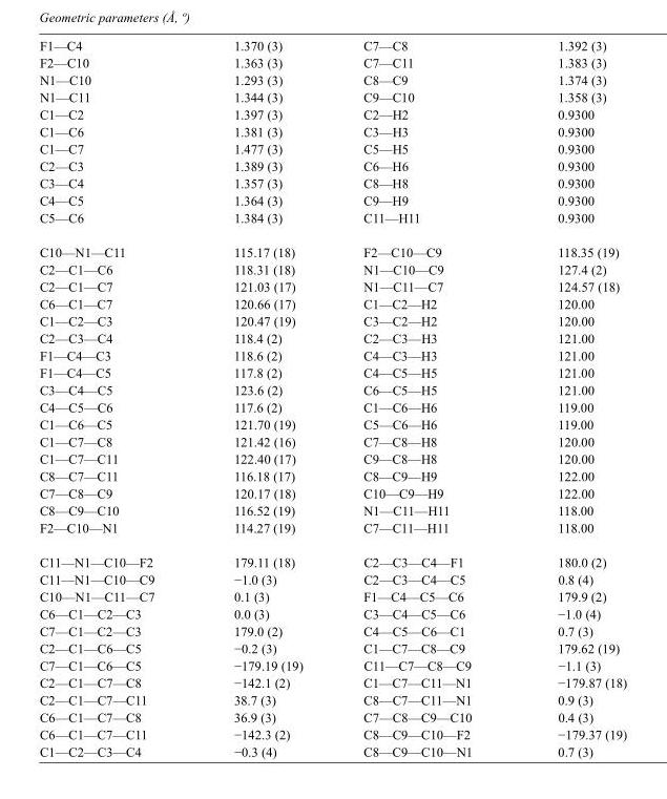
<table><tbody><tr><td>F1—C4</td><td>1.370 (3)</td><td>C7—C8</td><td>1.392 (3)</td></tr><tr><td>F2—C10</td><td>1.363 (3)</td><td>C7—C11</td><td>1.383 (3)</td></tr><tr><td>N1—C10</td><td>1.293 (3)</td><td>C8—C9</td><td>1.374 (3)</td></tr><tr><td>N1—C11</td><td>1.344 (3)</td><td>C9—C10</td><td>1.358 (3)</td></tr><tr><td>C1—C2</td><td>1.397 (3)</td><td>C2—H2</td><td>0.9300</td></tr><tr><td>C1—C6</td><td>1.381 (3)</td><td>C3—H3</td><td>0.9300</td></tr><tr><td>C1—C7</td><td>1.477 (3)</td><td>C5—H5</td><td>0.9300</td></tr><tr><td>C2—C3</td><td>1.389 (3)</td><td>C6—H6</td><td>0.9300</td></tr><tr><td>C3—C4</td><td>1.357 (3)</td><td>C8—H8</td><td>0.9300</td></tr><tr><td>C4—C5</td><td>1.364 (3)</td><td>C9—H9</td><td>0.9300</td></tr><tr><td>C5—C6</td><td>1.384 (3)</td><td>C11—H11</td><td>0.9300</td></tr><tr><td>C10—N1—C11</td><td>115.17 (18)</td><td>F2—C10—C9</td><td>118.35 (19)</td></tr><tr><td>C2—C1—C6</td><td>118.31 (18)</td><td>N1—C10—C9</td><td>127.4 (2)</td></tr><tr><td>C2—C1—C7</td><td>121.03 (17)</td><td>N1—C11—C7</td><td>124.57 (18)</td></tr><tr><td>C6—C1—C7</td><td>120.66 (17)</td><td>C1—C2—H2</td><td>120.00</td></tr><tr><td>C1—C2—C3</td><td>120.47 (19)</td><td>C3—C2—H2</td><td>120.00</td></tr><tr><td>C2—C3—C4</td><td>118.4 (2)</td><td>C2—C3—H3</td><td>121.00</td></tr><tr><td>F1—C4—C3</td><td>118.6 (2)</td><td>C4—C3—H3</td><td>121.00</td></tr><tr><td>F1—C4—C5</td><td>117.8 (2)</td><td>C4—C5—H5</td><td>121.00</td></tr><tr><td>C3—C4—C5</td><td>123.6 (2)</td><td>C6—C5—H5</td><td>121.00</td></tr><tr><td>C4—C5—C6</td><td>117.6 (2)</td><td>C1—C6—H6</td><td>119.00</td></tr><tr><td>C1—C6—C5</td><td>121.70 (19)</td><td>C5—C6—H6</td><td>119.00</td></tr><tr><td>C1—C7—C8</td><td>121.42 (16)</td><td>C7—C8—H8</td><td>120.00</td></tr><tr><td>C1—C7—C11</td><td>122.40 (17)</td><td>C9—C8—H8</td><td>120.00</td></tr><tr><td>C8—C7—C11</td><td>116.18 (17)</td><td>C8—C9—H9</td><td>122.00</td></tr><tr><td>C7—C8—C9</td><td>120.17 (18)</td><td>C10—C9—H9</td><td>122.00</td></tr><tr><td>C8—C9—C10</td><td>116.52 (19)</td><td>N1—C11—H11</td><td>118.00</td></tr><tr><td>F2—C10—N1</td><td>114.27 (19)</td><td>C7—C11—H11</td><td>118.00</td></tr><tr><td>C11—N1—C10—F2</td><td>179.11 (18)</td><td>C2—C3—C4—F1</td><td>180.0 (2)</td></tr><tr><td>C11—N1—C10—C9</td><td>−1.0 (3)</td><td>C2—C3—C4—C5</td><td>0.8 (4)</td></tr><tr><td>C10—N1—C11—C7</td><td>0.1 (3)</td><td>F1—C4—C5—C6</td><td>179.9 (2)</td></tr><tr><td>C6—C1—C2—C3</td><td>0.0 (3)</td><td>C3—C4—C5—C6</td><td>−1.0 (4)</td></tr><tr><td>C7—C1—C2—C3</td><td>179.0 (2)</td><td>C4—C5—C6—C1</td><td>0.7 (3)</td></tr><tr><td>C2—C1—C6—C5</td><td>−0.2 (3)</td><td>C1—C7—C8—C9</td><td>179.62 (19)</td></tr><tr><td>C7—C1—C6—C5</td><td>−179.19 (19)</td><td>C11—C7—C8—C9</td><td>−1.1 (3)</td></tr><tr><td>C2—C1—C7—C8</td><td>−142.1 (2)</td><td>C1—C7—C11—N1</td><td>−179.87 (18)</td></tr><tr><td>C2—C1—C7—C11</td><td>38.7 (3)</td><td>C8—C7—C11—N1</td><td>0.9 (3)</td></tr><tr><td>C6—C1—C7—C8</td><td>36.9 (3)</td><td>C7—C8—C9—C10</td><td>0.4 (3)</td></tr><tr><td>C6—C1—C7—C11</td><td>−142.3 (2)</td><td>C8—C9—C10—F2</td><td>−179.37 (19)</td></tr><tr><td>C1—C2—C3—C4</td><td>−0.3 (4)</td><td>C8—C9—C10—N1</td><td>0.7 (3)</td></tr></tbody></table>